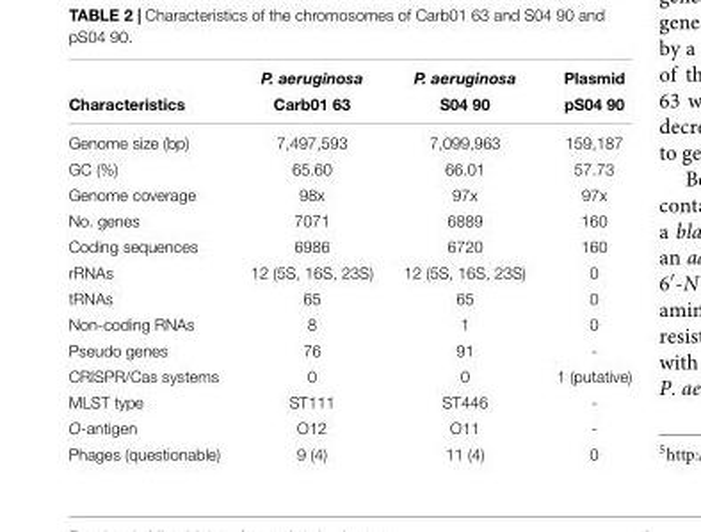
<table><thead><tr><td rowspan="2">Characteristics</td><td rowspan="2">P. aeruginosa Carb01 63</td><td rowspan="2">P. aeruginosa S04 90</td><td rowspan="2">Plasmid pS04 90</td></tr><tr></tr></thead><tbody><tr><td>Genome size (bp)</td><td>7,497,593</td><td>7,099,963</td><td>159,187</td></tr><tr><td>GC (%)</td><td>65.60</td><td>66.01</td><td>57.73</td></tr><tr><td>Genome coverage</td><td>98x</td><td>97x</td><td>97x</td></tr><tr><td>No. genes</td><td>7071</td><td>6889</td><td>160</td></tr><tr><td>Coding sequences</td><td>6986</td><td>6720</td><td>160</td></tr><tr><td>rRNAs</td><td>12 (5S, 16S, 23S)</td><td>12 (5S, 16S, 23S)</td><td>0</td></tr><tr><td>tRNAs</td><td>65</td><td>65</td><td>0</td></tr><tr><td>Non-coding RNAs</td><td>8</td><td>1</td><td>0</td></tr><tr><td>Pseudo genes</td><td>76</td><td>91</td><td>-</td></tr><tr><td>CRISPR/Cas systems</td><td>0</td><td>0</td><td>1 (putative)</td></tr><tr><td>MLST type</td><td>ST111</td><td>ST446</td><td>-</td></tr><tr><td>O-antigen</td><td>O12</td><td>O11</td><td>-</td></tr><tr><td>Phages (questionable)</td><td>9 (4)</td><td>11 (4)</td><td>0</td></tr></tbody></table>